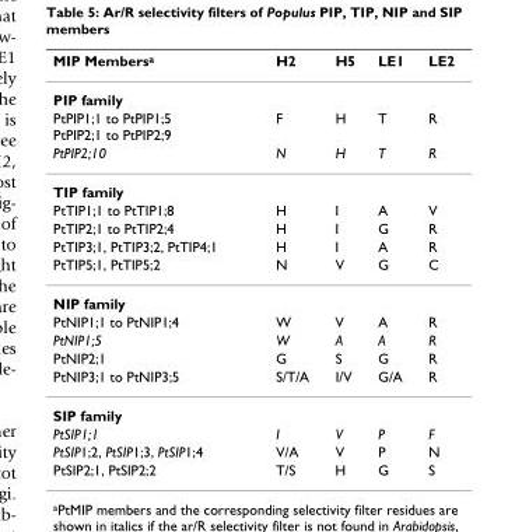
<table><thead><tr><td>MIP Members<sup>a</sup></td><td>H2</td><td>H5</td><td>LE1</td><td>LE2</td></tr></thead><tbody><tr><td colspan="5">PIP family</td></tr><tr><td>PtPIP1;1 to PtPIP1;5 PtPIP2;1 to PtPIP2;9</td><td>F</td><td>H</td><td>T</td><td>R</td></tr><tr><td>PtPIP2;10</td><td>N</td><td>H</td><td>T</td><td>R</td></tr><tr><td colspan="5">TIP family</td></tr><tr><td>PtTIP1;1 to PtTIP1;8</td><td>H</td><td>I</td><td>A</td><td>V</td></tr><tr><td>PtTIP2;1 to PtTIP2;4</td><td>H</td><td>I</td><td>G</td><td>R</td></tr><tr><td>PtTIP3;1, PtTIP3;2, PtTIP4;1</td><td>H</td><td>I</td><td>A</td><td>R</td></tr><tr><td>PtTIP5;1, PtTIP5;2</td><td>N</td><td>V</td><td>G</td><td>C</td></tr><tr><td colspan="5">NIP family</td></tr><tr><td>PtNIP1;1 to PtNIP1;4</td><td>W</td><td>V</td><td>A</td><td>R</td></tr><tr><td>PtNIP1;5</td><td>W</td><td>A</td><td>A</td><td>R</td></tr><tr><td>PtNIP2;1</td><td>G</td><td>S</td><td>G</td><td>R</td></tr><tr><td>PtNIP3;1 to PtNIP3;5</td><td>S/T/A</td><td>I/V</td><td>G/A</td><td>R</td></tr><tr><td colspan="5">SIP family</td></tr><tr><td>PtSIP1;1</td><td>I</td><td>V</td><td>P</td><td>F</td></tr><tr><td>PtSIP1;2, PtSIP1;3, PtSIP1;4</td><td>V/A</td><td>V</td><td>P</td><td>N</td></tr><tr><td>PtSIP2;1, PtSIP2;2</td><td>T/S</td><td>H</td><td>G</td><td>S</td></tr></tbody></table>